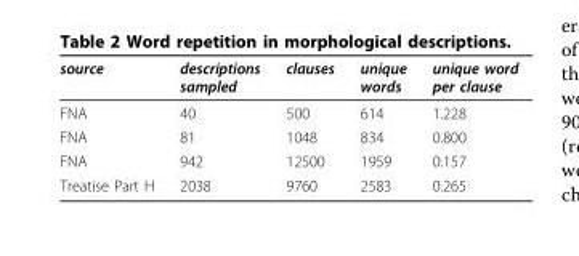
<table><thead><tr><td>source</td><td>descriptions sampled</td><td>clauses</td><td>unique words</td><td>unique word per clause</td></tr></thead><tbody><tr><td>FNA</td><td>40</td><td>500</td><td>614</td><td>1.228</td></tr><tr><td>FNA</td><td>81</td><td>1048</td><td>834</td><td>0.800</td></tr><tr><td>FNA</td><td>942</td><td>12500</td><td>1959</td><td>0.157</td></tr><tr><td>Treatise Part H</td><td>2038</td><td>9760</td><td>2583</td><td>0.265</td></tr></tbody></table>